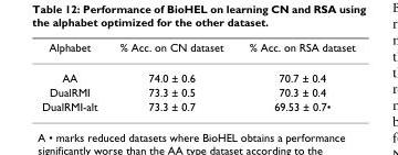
<table><thead><tr><td>Alphabet</td><td>% Acc. on CN dataset</td><td>% Acc. on RSA dataset</td></tr></thead><tbody><tr><td>AA</td><td>74.0 ± 0.6</td><td>70.7 ± 0.4</td></tr><tr><td>DualRMI</td><td>73.3 ± 0.5</td><td>70.3 ± 0.4</td></tr><tr><td>DualRMI-alt</td><td>73.3 ± 0.7</td><td>69.53 ± 0.7•</td></tr></tbody></table>